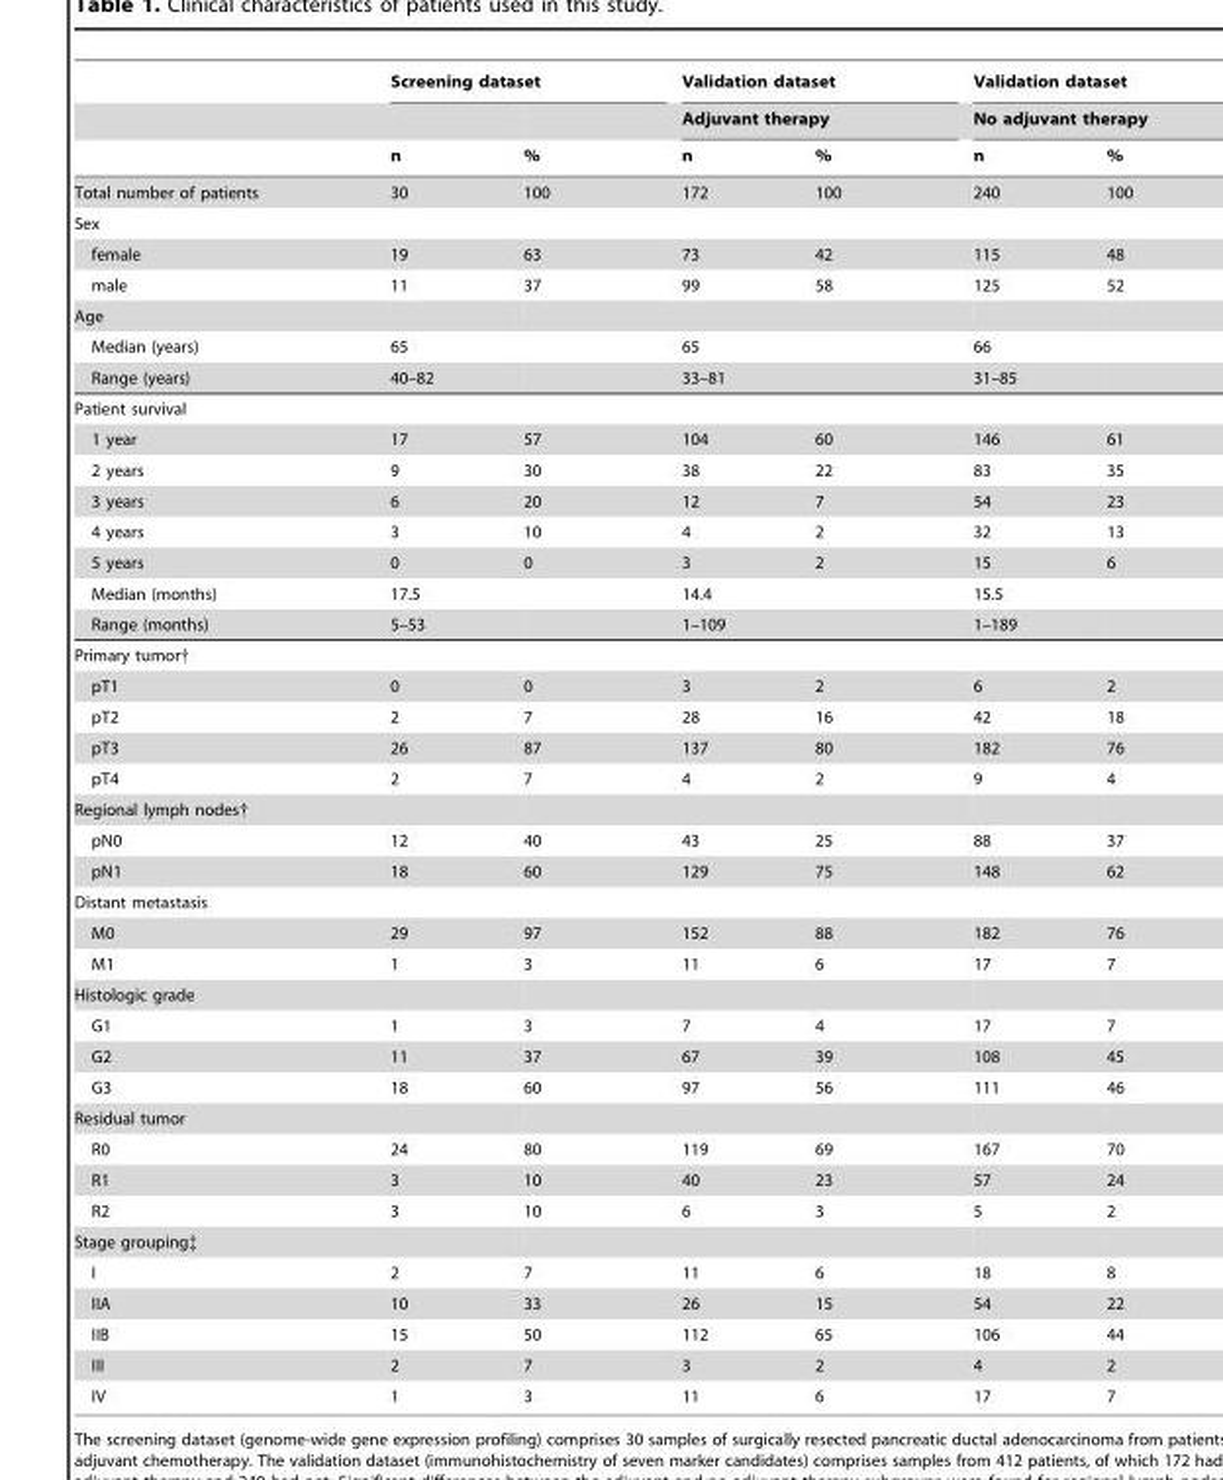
<table><thead><tr><td rowspan="3"></td><td colspan="2">Screening dataset</td><td rowspan="2" colspan="2">Validation dataset Adjuvant therapy</td><td rowspan="2" colspan="2">Validation dataset No adjuvant therapy</td></tr><tr><td rowspan="2">n</td><td rowspan="2">%</td></tr><tr><td>n</td><td>%</td><td>n</td><td>%</td></tr></thead><tbody><tr><td>Total number of patients</td><td>30</td><td>100</td><td>172</td><td>100</td><td>240</td><td>100</td></tr><tr><td colspan="7">Sex</td></tr><tr><td>female</td><td>19</td><td>63</td><td>73</td><td>42</td><td>115</td><td>48</td></tr><tr><td>male</td><td>11</td><td>37</td><td>99</td><td>58</td><td>125</td><td>52</td></tr><tr><td colspan="7">Age</td></tr><tr><td>Median (years)</td><td>65</td><td></td><td>65</td><td></td><td>66</td><td></td></tr><tr><td>Range (years)</td><td>40–82</td><td></td><td>33–81</td><td></td><td>31–85</td><td></td></tr><tr><td colspan="7">Patient survival</td></tr><tr><td>1 year</td><td>17</td><td>57</td><td>104</td><td>60</td><td>146</td><td>61</td></tr><tr><td>2 years</td><td>9</td><td>30</td><td>38</td><td>22</td><td>83</td><td>35</td></tr><tr><td>3 years</td><td>6</td><td>20</td><td>12</td><td>7</td><td>54</td><td>23</td></tr><tr><td>4 years</td><td>3</td><td>10</td><td>4</td><td>2</td><td>32</td><td>13</td></tr><tr><td>5 years</td><td>0</td><td>0</td><td>3</td><td>2</td><td>15</td><td>6</td></tr><tr><td>Median (months)</td><td>17.5</td><td></td><td>14.4</td><td></td><td>15.5</td><td></td></tr><tr><td>Range (months)</td><td>5–53</td><td></td><td>1–109</td><td></td><td>1–189</td><td></td></tr><tr><td colspan="7">Primary tumor†</td></tr><tr><td>pT1</td><td>0</td><td>0</td><td>3</td><td>2</td><td>6</td><td>2</td></tr><tr><td>pT2</td><td>2</td><td>7</td><td>28</td><td>16</td><td>42</td><td>18</td></tr><tr><td>pT3</td><td>26</td><td>87</td><td>137</td><td>80</td><td>182</td><td>76</td></tr><tr><td>pT4</td><td>2</td><td>7</td><td>4</td><td>2</td><td>9</td><td>4</td></tr><tr><td colspan="7">Regional lymph nodes†</td></tr><tr><td>pN0</td><td>12</td><td>40</td><td>43</td><td>25</td><td>88</td><td>37</td></tr><tr><td>pN1</td><td>18</td><td>60</td><td>129</td><td>75</td><td>148</td><td>62</td></tr><tr><td colspan="7">Distant metastasis</td></tr><tr><td>M0</td><td>29</td><td>97</td><td>152</td><td>88</td><td>182</td><td>76</td></tr><tr><td>M1</td><td>1</td><td>3</td><td>11</td><td>6</td><td>17</td><td>7</td></tr><tr><td colspan="7">Histologic grade</td></tr><tr><td>G1</td><td>1</td><td>3</td><td>7</td><td>4</td><td>17</td><td>7</td></tr><tr><td>G2</td><td>11</td><td>37</td><td>67</td><td>39</td><td>108</td><td>45</td></tr><tr><td>G3</td><td>18</td><td>60</td><td>97</td><td>56</td><td>111</td><td>46</td></tr><tr><td colspan="7">Residual tumor</td></tr><tr><td>R0</td><td>24</td><td>80</td><td>119</td><td>69</td><td>167</td><td>70</td></tr><tr><td>R1</td><td>3</td><td>10</td><td>40</td><td>23</td><td>57</td><td>24</td></tr><tr><td>R2</td><td>3</td><td>10</td><td>6</td><td>3</td><td>5</td><td>2</td></tr><tr><td colspan="7">Stage grouping‡</td></tr><tr><td>I</td><td>2</td><td>7</td><td>11</td><td>6</td><td>18</td><td>8</td></tr><tr><td>IIA</td><td>10</td><td>33</td><td>26</td><td>15</td><td>54</td><td>22</td></tr><tr><td>IIB</td><td>15</td><td>50</td><td>112</td><td>65</td><td>106</td><td>44</td></tr><tr><td>III</td><td>2</td><td>7</td><td>3</td><td>2</td><td>4</td><td>2</td></tr><tr><td>IV</td><td>1</td><td>3</td><td>11</td><td>6</td><td>17</td><td>7</td></tr></tbody></table>